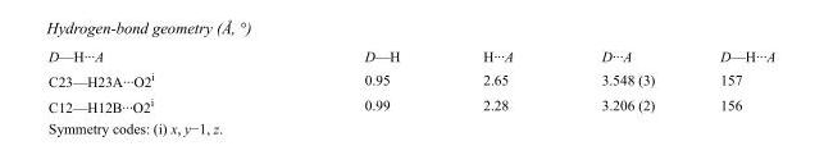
<table><tbody><tr><td>D—H···A</td><td>D—H</td><td>H···A</td><td>D···A</td><td>D—H···A</td></tr><tr><td>C23—H23A···O2<sup>i</sup></td><td>0.95</td><td>2.65</td><td>3.548 (3)</td><td>157</td></tr><tr><td>C12—H12B···O2<sup>i</sup></td><td>0.99</td><td>2.28</td><td>3.206 (2)</td><td>156</td></tr></tbody></table>